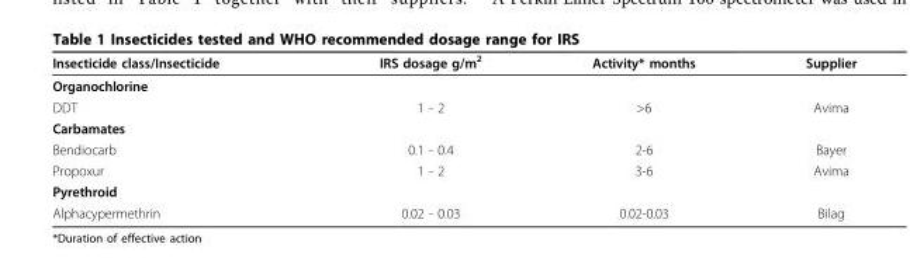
<table><thead><tr><td>Insecticide class/Insecticide</td><td>IRS dosage g/m<sup>2</sup></td><td>Activity* months</td><td>Supplier</td></tr></thead><tbody><tr><td colspan="4">Organochlorine</td></tr><tr><td>DDT</td><td>1 - 2</td><td>&gt;6</td><td>Avima</td></tr><tr><td colspan="4">Carbamates</td></tr><tr><td>Bendiocarb</td><td>0.1 - 0.4</td><td>2-6</td><td>Bayer</td></tr><tr><td>Propoxur</td><td>1 - 2</td><td>3-6</td><td>Avima</td></tr><tr><td colspan="4">Pyrethroid</td></tr><tr><td>Alphacypermethrin</td><td>0.02 - 0.03</td><td>0.02-0.03</td><td>Bilag</td></tr></tbody></table>